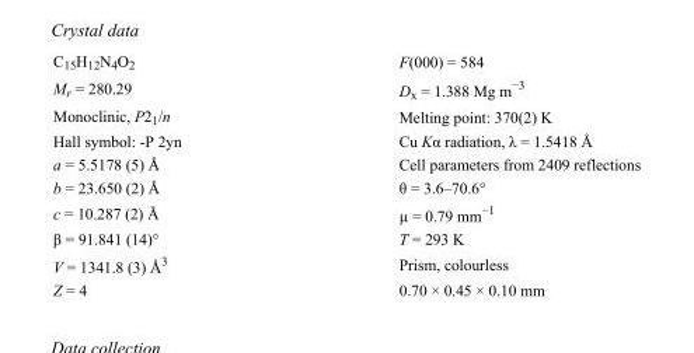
<table><tbody><tr><td>C<sub>15</sub>H<sub>12</sub>N<sub>4</sub>O<sub>2</sub></td><td>F(000) = 584</td></tr><tr><td>M<sub>r</sub> = 280.29</td><td>D<sub>x</sub> = 1.388 Mg m<sup>−3</sup></td></tr><tr><td>Monoclinic, P2<sub>1</sub>/n</td><td>Melting point: 370(2) K</td></tr><tr><td>Hall symbol: -P 2yn</td><td>Cu Kα radiation, λ = 1.5418 Å</td></tr><tr><td>a = 5.5178 (5) Å</td><td>Cell parameters from 2409 reflections</td></tr><tr><td>b = 23.650 (2) Å</td><td>θ = 3.6–70.6°</td></tr><tr><td>c = 10.287 (2) Å</td><td>µ = 0.79 mm<sup>−1</sup></td></tr><tr><td>β = 91.841 (14)°</td><td>T = 293 K</td></tr><tr><td>V = 1341.8 (3) Å<sup>3</sup></td><td>Prism, colourless</td></tr><tr><td>Z = 4</td><td>0.70 × 0.45 × 0.10 mm</td></tr></tbody></table>